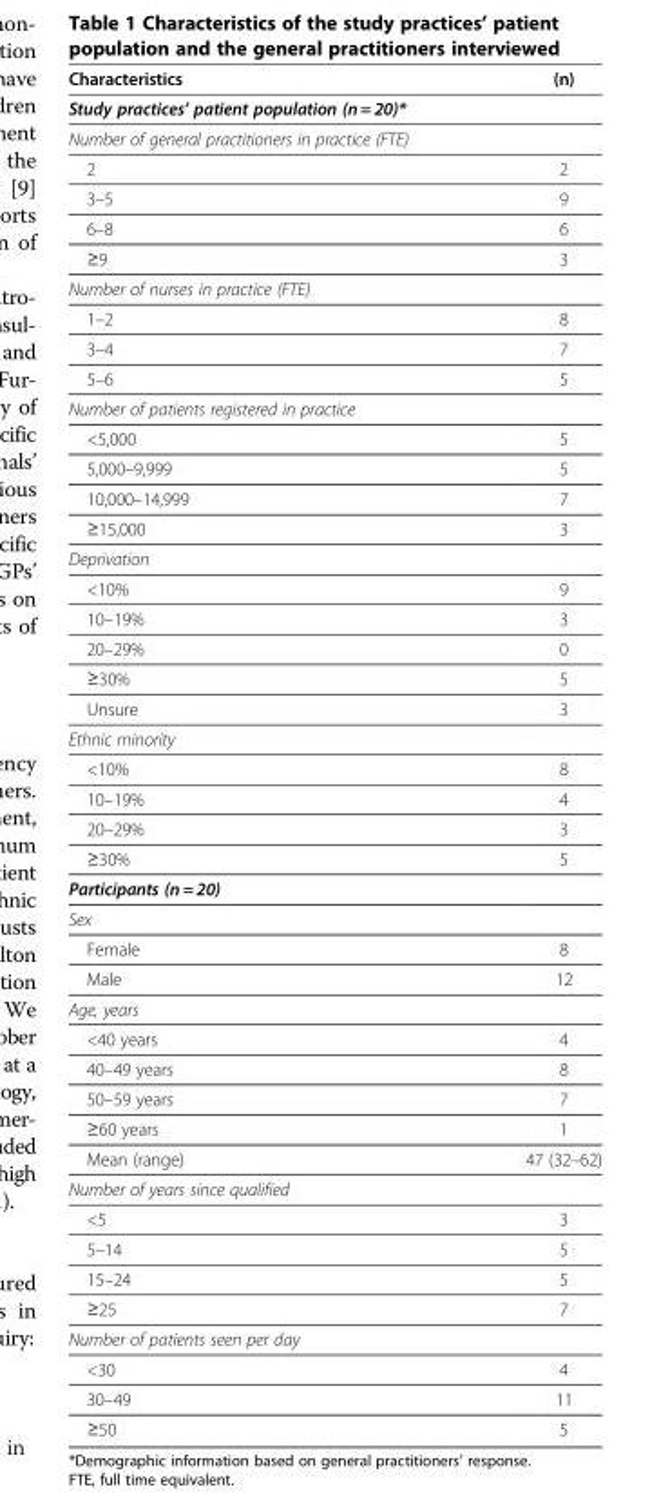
<table><thead><tr><td>Characteristics</td><td>(n)</td></tr></thead><tbody><tr><td colspan="2">Study practices’ patient population (n = 20)*</td></tr><tr><td colspan="2">Number of general practitioners in practice (FTE)</td></tr><tr><td>2</td><td>2</td></tr><tr><td>3–5</td><td>9</td></tr><tr><td>6–8</td><td>6</td></tr><tr><td>≥9</td><td>3</td></tr><tr><td colspan="2">Number of nurses in practice (FTE)</td></tr><tr><td>1–2</td><td>8</td></tr><tr><td>3–4</td><td>7</td></tr><tr><td>5–6</td><td>5</td></tr><tr><td colspan="2">Number of patients registered in practice</td></tr><tr><td>&lt;5,000</td><td>5</td></tr><tr><td>5,000–9,999</td><td>5</td></tr><tr><td>10,000–14,999</td><td>7</td></tr><tr><td>≥15,000</td><td>3</td></tr><tr><td colspan="2">Deprivation</td></tr><tr><td>&lt;10%</td><td>9</td></tr><tr><td>10–19%</td><td>3</td></tr><tr><td>20–29%</td><td>0</td></tr><tr><td>≥30%</td><td>5</td></tr><tr><td>Unsure</td><td>3</td></tr><tr><td colspan="2">Ethnic minority</td></tr><tr><td>&lt;10%</td><td>8</td></tr><tr><td>10–19%</td><td>4</td></tr><tr><td>20–29%</td><td>3</td></tr><tr><td>≥30%</td><td>5</td></tr><tr><td colspan="2">Participants (n = 20)</td></tr><tr><td colspan="2">Sex</td></tr><tr><td>Female</td><td>8</td></tr><tr><td>Male</td><td>12</td></tr><tr><td colspan="2">Age, years</td></tr><tr><td>&lt;40 years</td><td>4</td></tr><tr><td>40–49 years</td><td>8</td></tr><tr><td>50–59 years</td><td>7</td></tr><tr><td>≥60 years</td><td>1</td></tr><tr><td>Mean (range)</td><td>47 (32–62)</td></tr><tr><td colspan="2">Number of years since qualified</td></tr><tr><td>&lt;5</td><td>3</td></tr><tr><td>5–14</td><td>5</td></tr><tr><td>15–24</td><td>5</td></tr><tr><td>≥25</td><td>7</td></tr><tr><td colspan="2">Number of patients seen per day</td></tr><tr><td>&lt;30</td><td>4</td></tr><tr><td>30–49</td><td>11</td></tr><tr><td>≥50</td><td>5</td></tr></tbody></table>